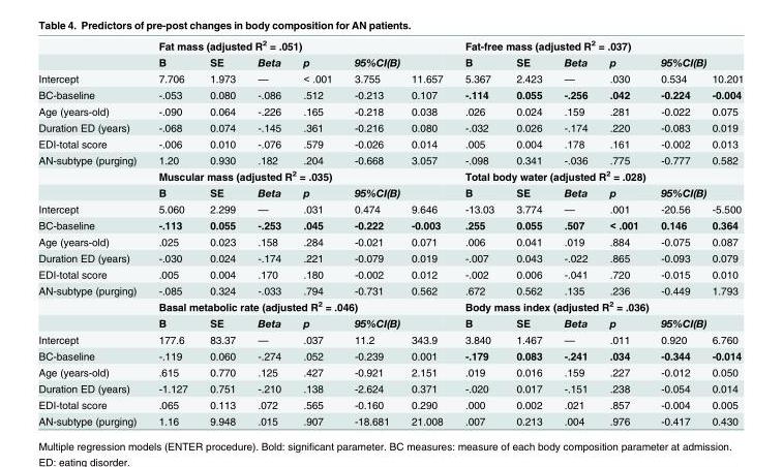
<table><thead><tr><td rowspan="3">Intercept</td><td colspan="6">Fat mass (adjusted R<sup>2</sup> = .051)</td><td colspan="6">Fat-free mass (adjusted R<sup>2</sup> = .037)</td></tr><tr><td rowspan="2">B 7.706</td><td rowspan="2">SE 1.973</td><td rowspan="2">Beta —</td><td rowspan="2">p &lt; .001</td><td colspan="2">95%CI(B)</td><td rowspan="2">B 5.367</td><td rowspan="2">SE 2.423</td><td rowspan="2">Beta —</td><td rowspan="2">p .030</td><td colspan="2">95%CI(B)</td></tr><tr><td>3.755</td><td>11.657</td><td>0.534</td><td>10.201</td></tr></thead><tbody><tr><td>BC-baseline</td><td>-.053</td><td>0.080</td><td>-.086</td><td>.512</td><td>-0.213</td><td>0.107</td><td>-.114</td><td>0.055</td><td>-.256</td><td>.042</td><td>-0.224</td><td>-0.004</td></tr><tr><td>Age (years-old)</td><td>-.090</td><td>0.064</td><td>-.226</td><td>.165</td><td>-0.218</td><td>0.038</td><td>.026</td><td>0.024</td><td>.159</td><td>.281</td><td>-0.022</td><td>0.075</td></tr><tr><td>Duration ED (years)</td><td>-.068</td><td>0.074</td><td>-.145</td><td>.361</td><td>-0.216</td><td>0.080</td><td>-.032</td><td>0.026</td><td>-.174</td><td>.220</td><td>-0.083</td><td>0.019</td></tr><tr><td>EDI-total score</td><td>-.006</td><td>0.010</td><td>-.076</td><td>.579</td><td>-0.026</td><td>0.014</td><td>.005</td><td>0.004</td><td>.178</td><td>.161</td><td>-0.002</td><td>0.013</td></tr><tr><td rowspan="3">AN-subtype (purging)</td><td>1.20</td><td>0.930</td><td>.182</td><td>.204</td><td>-0.668</td><td>3.057</td><td>-.098</td><td>0.341</td><td>-.036</td><td>.775</td><td>-0.777</td><td>0.582</td></tr><tr><td colspan="6">Muscular mass (adjusted R<sup>2</sup> = .035)</td><td colspan="6">Total body water (adjusted R<sup>2</sup> = .028)</td></tr><tr><td>B</td><td>SE</td><td>Beta</td><td>p</td><td colspan="2">95%CI(B)</td><td>B</td><td>SE</td><td>Beta</td><td>p</td><td colspan="2">95%CI(B)</td></tr><tr><td>Intercept</td><td>5.060</td><td>2.299</td><td>—</td><td>.031</td><td>0.474</td><td>9.646</td><td>-13.03</td><td>3.774</td><td>—</td><td>.001</td><td>-20.56</td><td>-5.500</td></tr><tr><td>BC-baseline</td><td>-.113</td><td>0.055</td><td>-.253</td><td>.045</td><td>-0.222</td><td>-0.003</td><td>.255</td><td>0.055</td><td>.507</td><td>&lt; .001</td><td>0.146</td><td>0.364</td></tr><tr><td>Age (years-old)</td><td>.025</td><td>0.023</td><td>.158</td><td>.284</td><td>-0.021</td><td>0.071</td><td>.006</td><td>0.041</td><td>.019</td><td>.884</td><td>-0.075</td><td>0.087</td></tr><tr><td>Duration ED (years)</td><td>-.030</td><td>0.024</td><td>-.174</td><td>.221</td><td>-0.079</td><td>0.019</td><td>-.007</td><td>0.043</td><td>-.022</td><td>.865</td><td>-0.093</td><td>0.079</td></tr><tr><td>EDI-total score</td><td>.005</td><td>0.004</td><td>.170</td><td>.180</td><td>-0.002</td><td>0.012</td><td>-.002</td><td>0.006</td><td>-.041</td><td>.720</td><td>-0.015</td><td>0.010</td></tr><tr><td rowspan="3">AN-subtype (purging)</td><td>-.085</td><td>0.324</td><td>-.033</td><td>.794</td><td>-0.731</td><td>0.562</td><td>.672</td><td>0.562</td><td>.135</td><td>.236</td><td>-0.449</td><td>1.793</td></tr><tr><td colspan="6">Basal metabolic rate (adjusted R<sup>2</sup> = .046)</td><td colspan="6">Body mass index (adjusted R<sup>2</sup> = .036)</td></tr><tr><td>B</td><td>SE</td><td>Beta</td><td>p</td><td colspan="2">95%CI(B)</td><td>B</td><td>SE</td><td>Beta</td><td>p</td><td colspan="2">95%CI(B)</td></tr><tr><td>Intercept</td><td>177.6</td><td>83.37</td><td>—</td><td>.037</td><td>11.2</td><td>343.9</td><td>3.840</td><td>1.467</td><td>—</td><td>.011</td><td>0.920</td><td>6.760</td></tr><tr><td>BC-baseline</td><td>-.119</td><td>0.060</td><td>-.274</td><td>.052</td><td>-0.239</td><td>0.001</td><td>-.179</td><td>0.083</td><td>-.241</td><td>.034</td><td>-0.344</td><td>-0.014</td></tr><tr><td>Age (years-old)</td><td>.615</td><td>0.770</td><td>.125</td><td>.427</td><td>-0.921</td><td>2.151</td><td>.019</td><td>0.016</td><td>.159</td><td>.227</td><td>-0.012</td><td>0.050</td></tr><tr><td>Duration ED (years)</td><td>-1.127</td><td>0.751</td><td>-.210</td><td>.138</td><td>-2.624</td><td>0.371</td><td>-.020</td><td>0.017</td><td>-.151</td><td>.238</td><td>-0.054</td><td>0.014</td></tr><tr><td>EDI-total score</td><td>.065</td><td>0.113</td><td>.072</td><td>.565</td><td>-0.160</td><td>0.290</td><td>.000</td><td>0.002</td><td>.021</td><td>.857</td><td>-0.004</td><td>0.005</td></tr><tr><td>AN-subtype (purging)</td><td>1.16</td><td>9.948</td><td>.015</td><td>.907</td><td>-18.681</td><td>21.008</td><td>.007</td><td>0.213</td><td>.004</td><td>.976</td><td>-0.417</td><td>0.430</td></tr></tbody></table>